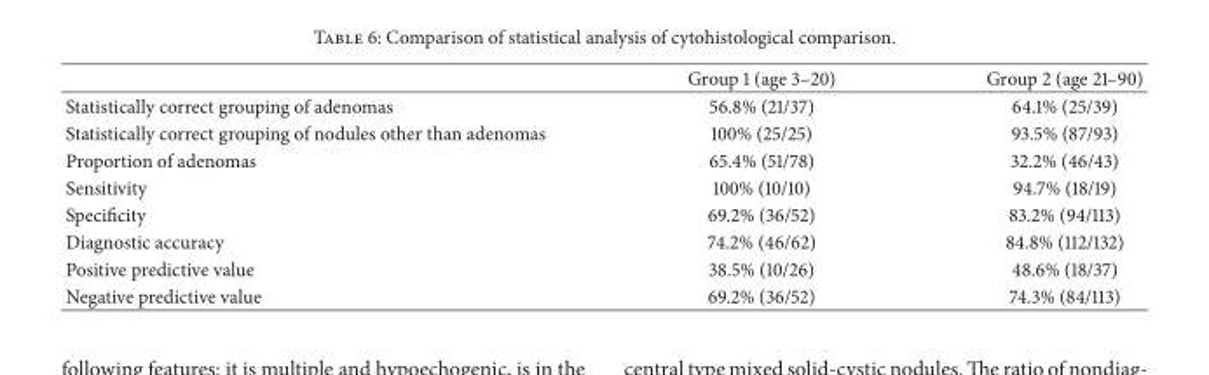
<table><thead><tr><td></td><td>Group 1 (age 3–20)</td><td>Group 2 (age 21–90)</td></tr></thead><tbody><tr><td>Statistically correct grouping of adenomas</td><td>56.8% (21/37)</td><td>64.1% (25/39)</td></tr><tr><td>Statistically correct grouping of nodules other than adenomas</td><td>100% (25/25)</td><td>93.5% (87/93)</td></tr><tr><td>Proportion of adenomas</td><td>65.4% (51/78)</td><td>32.2% (46/43)</td></tr><tr><td>Sensitivity</td><td>100% (10/10)</td><td>94.7% (18/19)</td></tr><tr><td>Specificity</td><td>69.2% (36/52)</td><td>83.2% (94/113)</td></tr><tr><td>Diagnostic accuracy</td><td>74.2% (46/62)</td><td>84.8% (112/132)</td></tr><tr><td>Positive predictive value</td><td>38.5% (10/26)</td><td>48.6% (18/37)</td></tr><tr><td>Negative predictive value</td><td>69.2% (36/52)</td><td>74.3% (84/113)</td></tr></tbody></table>